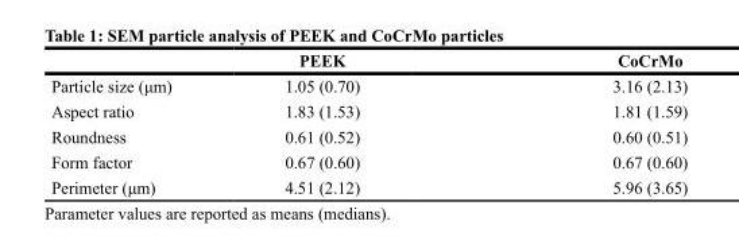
<table><thead><tr><td></td><td>PEEK</td><td>CoCrMo</td></tr></thead><tbody><tr><td>Particle size (μm)</td><td>1.05 (0.70)</td><td>3.16 (2.13)</td></tr><tr><td>Aspect ratio</td><td>1.83 (1.53)</td><td>1.81 (1.59)</td></tr><tr><td>Roundness</td><td>0.61 (0.52)</td><td>0.60 (0.51)</td></tr><tr><td>Form factor</td><td>0.67 (0.60)</td><td>0.67 (0.60)</td></tr><tr><td>Perimeter (μm)</td><td>4.51 (2.12)</td><td>5.96 (3.65)</td></tr></tbody></table>